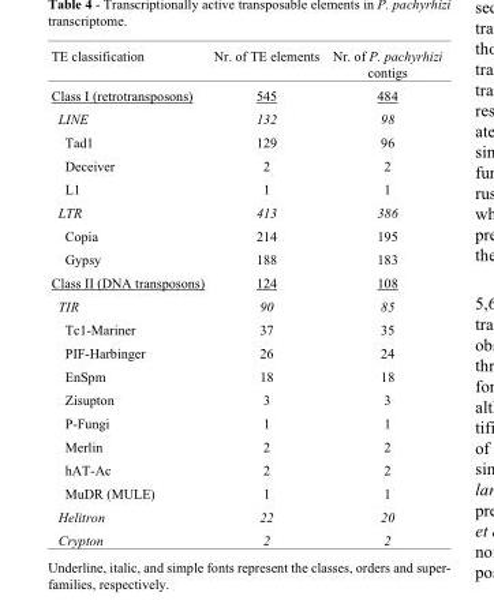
<table><thead><tr><td>TE classification</td><td>Nr. of TE elements</td><td>Nr. of P. pachyrhizi contigs</td></tr></thead><tbody><tr><td>Class I (retrotransposons)</td><td>545</td><td>484</td></tr><tr><td>LINE</td><td>132</td><td>98</td></tr><tr><td>Tad1</td><td>129</td><td>96</td></tr><tr><td>Deceiver</td><td>2</td><td>2</td></tr><tr><td>L1</td><td>1</td><td>1</td></tr><tr><td>LTR</td><td>413</td><td>386</td></tr><tr><td>Copia</td><td>214</td><td>195</td></tr><tr><td>Gypsy</td><td>188</td><td>183</td></tr><tr><td>Class II (DNA transposons)</td><td>124</td><td>108</td></tr><tr><td>TIR</td><td>90</td><td>85</td></tr><tr><td>Tc1-Mariner</td><td>37</td><td>35</td></tr><tr><td>PIF-Harbinger</td><td>26</td><td>24</td></tr><tr><td>EnSpm</td><td>18</td><td>18</td></tr><tr><td>Zisupton</td><td>3</td><td>3</td></tr><tr><td>P-Fungi</td><td>1</td><td>1</td></tr><tr><td>Merlin</td><td>2</td><td>2</td></tr><tr><td>hAT-Ac</td><td>2</td><td>2</td></tr><tr><td>MuDR (MULE)</td><td>1</td><td>1</td></tr><tr><td>Helitron</td><td>22</td><td>20</td></tr><tr><td>Crypton</td><td>2</td><td>2</td></tr></tbody></table>